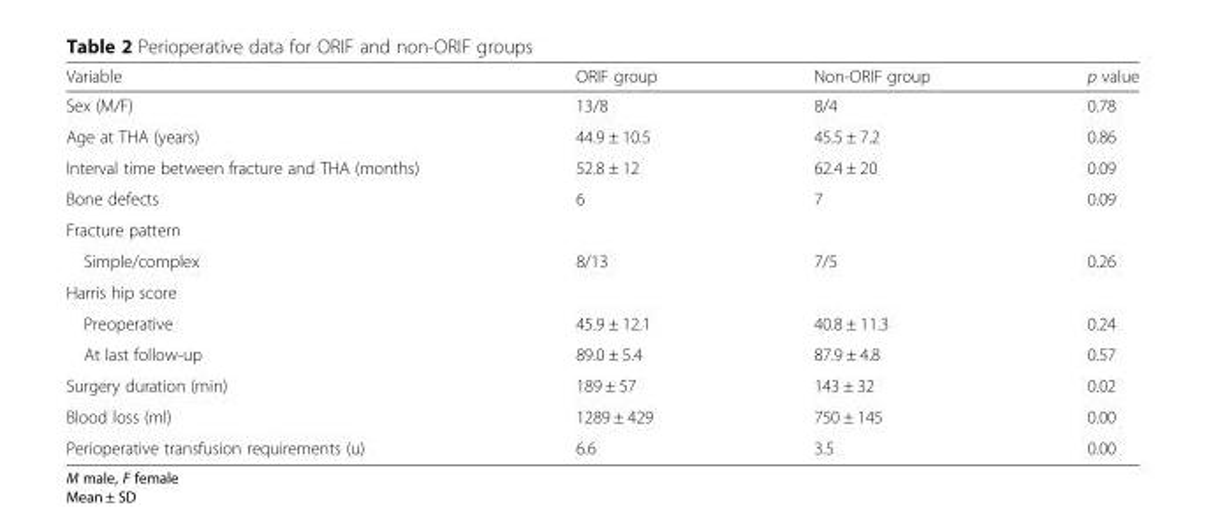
<table><thead><tr><td>Variable</td><td>ORIF group</td><td>Non-ORIF group</td><td>p value</td></tr></thead><tbody><tr><td>Sex (M/F)</td><td>13/8</td><td>8/4</td><td>0.78</td></tr><tr><td>Age at THA (years)</td><td>44.9 ± 10.5</td><td>45.5 ± 7.2</td><td>0.86</td></tr><tr><td>Interval time between fracture and THA (months)</td><td>52.8 ± 12</td><td>62.4 ± 20</td><td>0.09</td></tr><tr><td>Bone defects</td><td>6</td><td>7</td><td>0.09</td></tr><tr><td colspan="4">Fracture pattern</td></tr><tr><td>Simple/complex</td><td>8/13</td><td>7/5</td><td>0.26</td></tr><tr><td colspan="4">Harris hip score</td></tr><tr><td>Preoperative</td><td>45.9 ± 12.1</td><td>40.8 ± 11.3</td><td>0.24</td></tr><tr><td>At last follow-up</td><td>89.0 ± 5.4</td><td>87.9 ± 4.8</td><td>0.57</td></tr><tr><td>Surgery duration (min)</td><td>189 ± 57</td><td>143 ± 32</td><td>0.02</td></tr><tr><td>Blood loss (ml)</td><td>1289 ± 429</td><td>750 ± 145</td><td>0.00</td></tr><tr><td>Perioperative transfusion requirements (u)</td><td>6.6</td><td>3.5</td><td>0.00</td></tr></tbody></table>